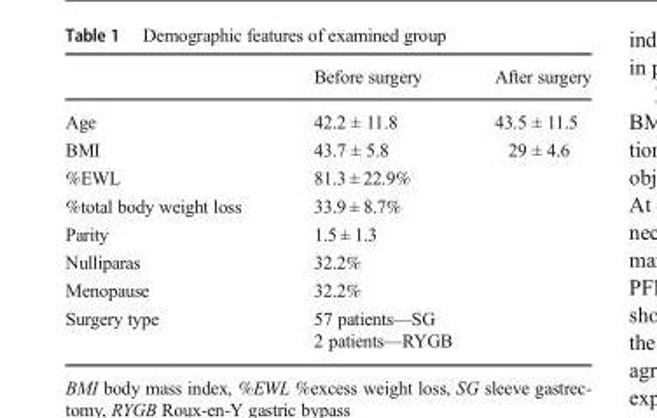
<table><thead><tr><td></td><td>Before surgery</td><td>After surgery</td></tr></thead><tbody><tr><td>Age</td><td>42.2 ± 11.8</td><td>43.5 ± 11.5</td></tr><tr><td>BMI</td><td>43.7 ± 5.8</td><td>29 ± 4.6</td></tr><tr><td>%EWL</td><td colspan="2">81.3 ± 22.9%</td></tr><tr><td>%total body weight loss</td><td colspan="2">33.9 ± 8.7%</td></tr><tr><td>Parity</td><td colspan="2">1.5 ± 1.3</td></tr><tr><td>Nulliparas</td><td colspan="2">32.2%</td></tr><tr><td>Menopause</td><td colspan="2">32.2%</td></tr><tr><td>Surgery type</td><td colspan="2">57 patients—SG 2 patients—RYGB</td></tr></tbody></table>